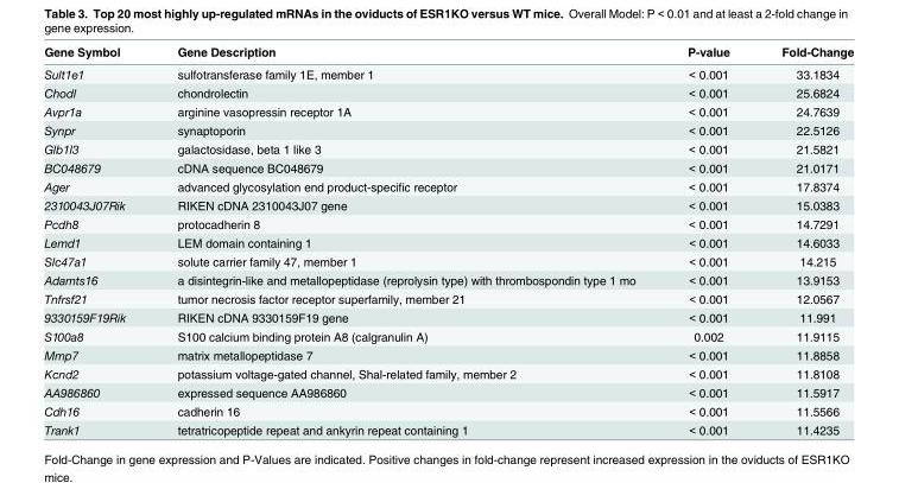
<table><thead><tr><td>Gene Symbol</td><td>Gene Description</td><td>P-value</td><td>Fold-Change</td></tr></thead><tbody><tr><td>Sult1e1</td><td>sulfotransferase family 1E, member 1</td><td>&lt; 0.001</td><td>33.1834</td></tr><tr><td>Chodl</td><td>chondrolectin</td><td>&lt; 0.001</td><td>25.6824</td></tr><tr><td>Avpr1a</td><td>arginine vasopressin receptor 1A</td><td>&lt; 0.001</td><td>24.7639</td></tr><tr><td>Synpr</td><td>synaptoporin</td><td>&lt; 0.001</td><td>22.5126</td></tr><tr><td>Glb1l3</td><td>galactosidase, beta 1 like 3</td><td>&lt; 0.001</td><td>21.5821</td></tr><tr><td>BC048679</td><td>cDNA sequence BC048679</td><td>&lt; 0.001</td><td>21.0171</td></tr><tr><td>Ager</td><td>advanced glycosylation end product-specific receptor</td><td>&lt; 0.001</td><td>17.8374</td></tr><tr><td>2310043J07Rik</td><td>RIKEN cDNA 2310043J07 gene</td><td>&lt; 0.001</td><td>15.0383</td></tr><tr><td>Pcdh8</td><td>protocadherin 8</td><td>&lt; 0.001</td><td>14.7291</td></tr><tr><td>Lemd1</td><td>LEM domain containing 1</td><td>&lt; 0.001</td><td>14.6033</td></tr><tr><td>Slc47a1</td><td>solute carrier family 47, member 1</td><td>&lt; 0.001</td><td>14.215</td></tr><tr><td>Adamts16</td><td>a disintegrin-like and metallopeptidase (reprolysin type) with thrombospondin type 1 mo</td><td>&lt; 0.001</td><td>13.9153</td></tr><tr><td>Tnfrsf21</td><td>tumor necrosis factor receptor superfamily, member 21</td><td>&lt; 0.001</td><td>12.0567</td></tr><tr><td>9330159F19Rik</td><td>RIKEN cDNA 9330159F19 gene</td><td>&lt; 0.001</td><td>11.991</td></tr><tr><td>S100a8</td><td>S100 calcium binding protein A8 (calgranulin A)</td><td>0.002</td><td>11.9115</td></tr><tr><td>Mmp7</td><td>matrix metallopeptidase 7</td><td>&lt; 0.001</td><td>11.8858</td></tr><tr><td>Kcnd2</td><td>potassium voltage-gated channel, Shal-related family, member 2</td><td>&lt; 0.001</td><td>11.8108</td></tr><tr><td>AA986860</td><td>expressed sequence AA986860</td><td>&lt; 0.001</td><td>11.5917</td></tr><tr><td>Cdh16</td><td>cadherin 16</td><td>&lt; 0.001</td><td>11.5566</td></tr><tr><td>Trank1</td><td>tetratricopeptide repeat and ankyrin repeat containing 1</td><td>&lt; 0.001</td><td>11.4235</td></tr></tbody></table>